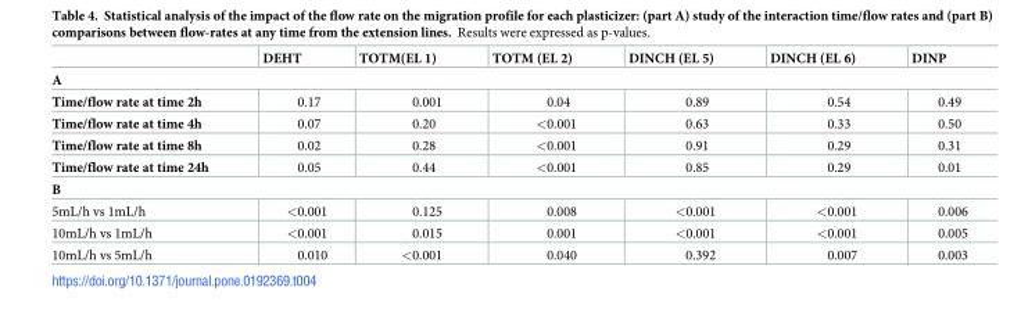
<table><thead><tr><td></td><td>DEHT</td><td>TOTM(EL 1)</td><td>TOTM (EL 2)</td><td>DINCH (EL 5)</td><td>DINCH (EL 6)</td><td>DINP</td></tr></thead><tbody><tr><td colspan="7">A</td></tr><tr><td>Time/flow rate at time 2h</td><td>0.17</td><td>0.001</td><td>0.04</td><td>0.89</td><td>0.54</td><td>0.49</td></tr><tr><td>Time/flow rate at time 4h</td><td>0.07</td><td>0.20</td><td>&lt;0.001</td><td>0.63</td><td>0.33</td><td>0.50</td></tr><tr><td>Time/flow rate at time 8h</td><td>0.02</td><td>0.28</td><td>&lt;0.001</td><td>0.91</td><td>0.29</td><td>0.31</td></tr><tr><td>Time/flow rate at time 24h</td><td>0.05</td><td>0.44</td><td>&lt;0.001</td><td>0.85</td><td>0.29</td><td>0.01</td></tr><tr><td colspan="7">B</td></tr><tr><td>5mL/h vs 1mL/h</td><td>&lt;0.001</td><td>0.125</td><td>0.008</td><td>&lt;0.001</td><td>&lt;0.001</td><td>0.006</td></tr><tr><td>10mL/h vs 1mL/h</td><td>&lt;0.001</td><td>0.015</td><td>0.001</td><td>&lt;0.001</td><td>&lt;0.001</td><td>0.005</td></tr><tr><td>10mL/h vs 5mL/h</td><td>0.010</td><td>&lt;0.001</td><td>0.040</td><td>0.392</td><td>0.007</td><td>0.003</td></tr></tbody></table>